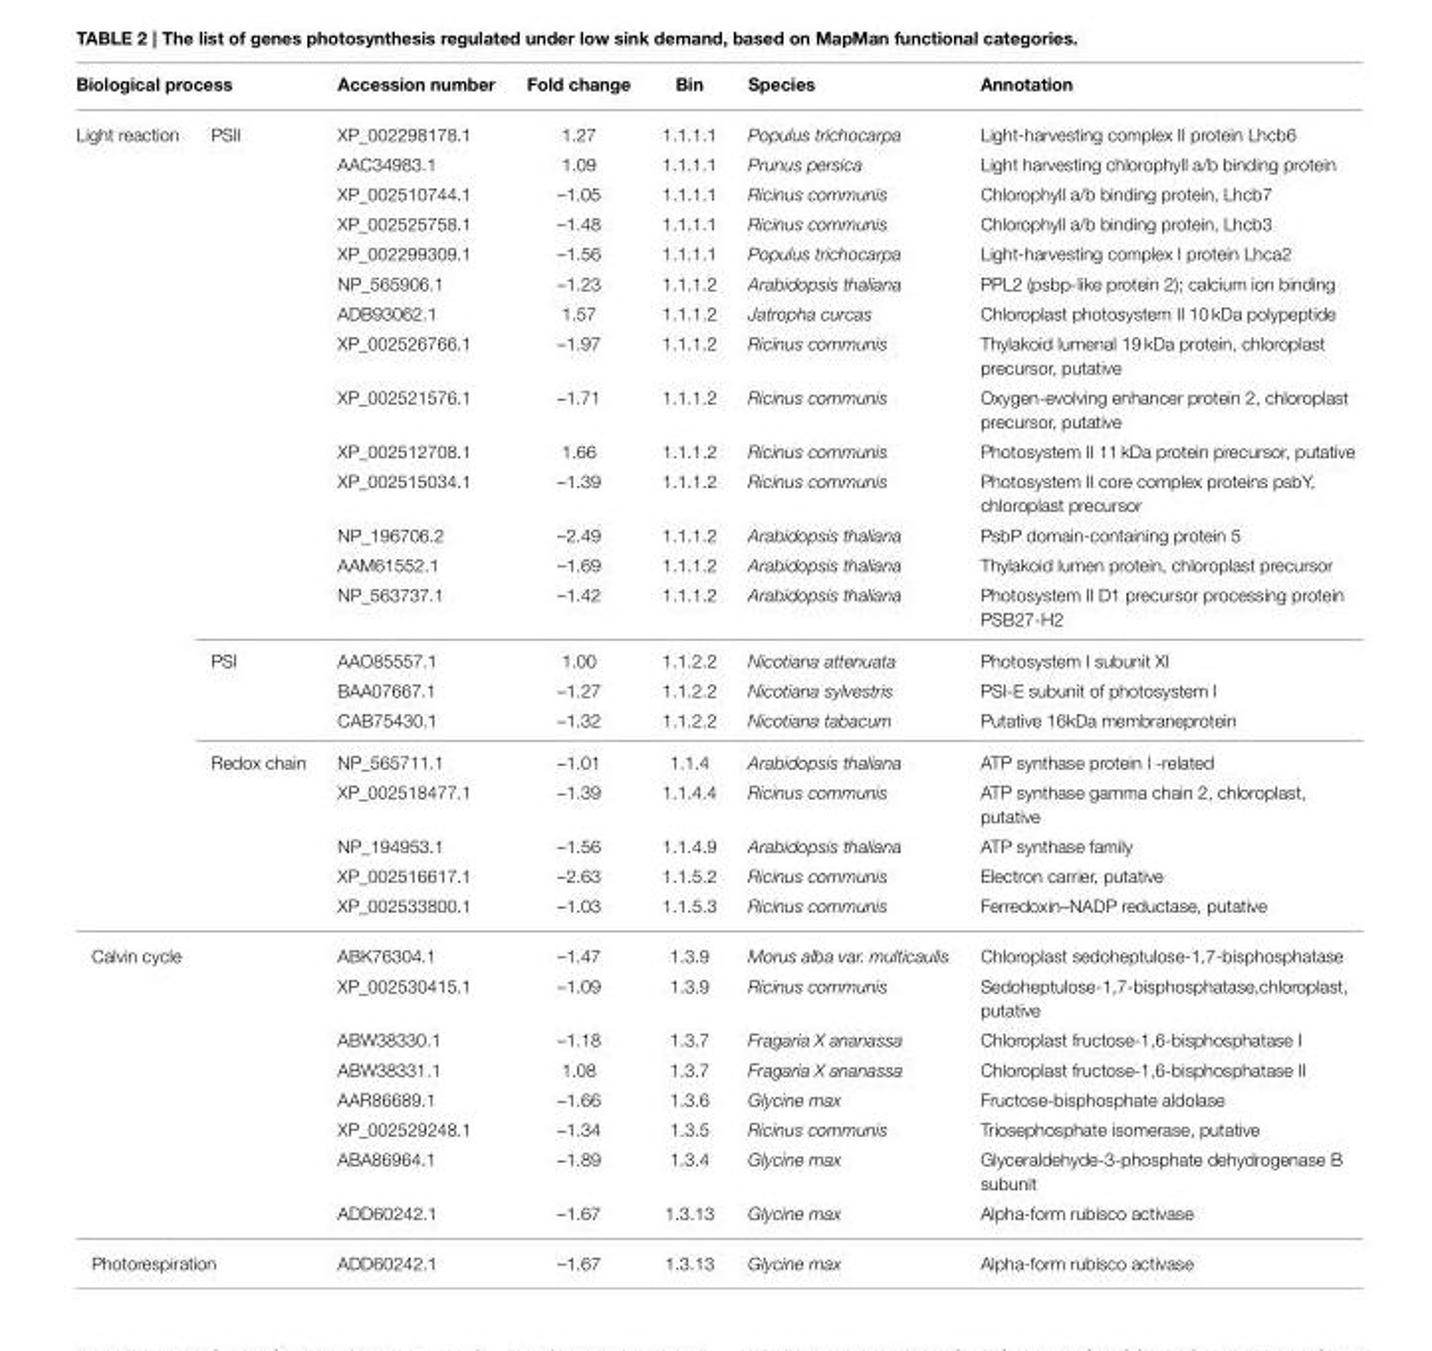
<table><thead><tr><td colspan="2">Biological process</td><td rowspan="2">Accession number XP_002298178.1</td><td rowspan="2">Fold change 1.27</td><td rowspan="2">Bin 1.1.1.1</td><td rowspan="2">Species Populus trichocarpa</td><td rowspan="2">Annotation Light-harvesting complex II protein Lhcb6</td></tr><tr><td>Light reaction</td><td>PSII</td></tr></thead><tbody><tr><td></td><td></td><td>AAC34983.1</td><td>1.09</td><td>1.1.1.1</td><td>Prunus persica</td><td>Light harvesting chlorophyll a/b binding protein</td></tr><tr><td></td><td></td><td>XP_002510744.1</td><td>–1.05</td><td>1.1.1.1</td><td>Ricinus communis</td><td>Chlorophyll a/b binding protein, Lhcb7</td></tr><tr><td></td><td></td><td>XP_002525758.1</td><td>–1.48</td><td>1.1.1.1</td><td>Ricinus communis</td><td>Chlorophyll a/b binding protein, Lhcb3</td></tr><tr><td></td><td></td><td>XP_002299309.1</td><td>–1.56</td><td>1.1.1.1</td><td>Populus trichocarpa</td><td>Light-harvesting complex I protein Lhca2</td></tr><tr><td></td><td></td><td>NP_565906.1</td><td>–1.23</td><td>1.1.1.2</td><td>Arabidopsis thaliana</td><td>PPL2 (psbp-like protein 2); calcium ion binding</td></tr><tr><td></td><td></td><td>ADB93062.1</td><td>1.57</td><td>1.1.1.2</td><td>Jatropha curcas</td><td>Chloroplast photosystem II 10 kDa polypeptide</td></tr><tr><td></td><td></td><td>XP_002526766.1</td><td>–1.97</td><td>1.1.1.2</td><td>Ricinus communis</td><td>Thylakoid lumenal 19 kDa protein, chloroplast precursor, putative</td></tr><tr><td></td><td></td><td>XP_002521576.1</td><td>–1.71</td><td>1.1.1.2</td><td>Ricinus communis</td><td>Oxygen-evolving enhancer protein 2, chloroplast precursor, putative</td></tr><tr><td></td><td></td><td>XP_002512708.1</td><td>1.66</td><td>1.1.1.2</td><td>Ricinus communis</td><td>Photosystem II 11 kDa protein precursor, putative</td></tr><tr><td></td><td></td><td>XP_002515034.1</td><td>–1.39</td><td>1.1.1.2</td><td>Ricinus communis</td><td>Photosystem II core complex proteins psbY, chloroplast precursor</td></tr><tr><td></td><td></td><td>NP_196706.2</td><td>–2.49</td><td>1.1.1.2</td><td>Arabidopsis thaliana</td><td>PsbP domain-containing protein 5</td></tr><tr><td></td><td></td><td>AAM61552.1</td><td>–1.69</td><td>1.1.1.2</td><td>Arabidopsis thaliana</td><td>Thylakoid lumen protein, chloroplast precursor</td></tr><tr><td></td><td></td><td>NP_563737.1</td><td>–1.42</td><td>1.1.1.2</td><td>Arabidopsis thaliana</td><td>Photosystem II D1 precursor processing protein PSB27-H2</td></tr><tr><td></td><td>PSI</td><td>AAO85557.1</td><td>1.00</td><td>1.1.2.2</td><td>Nicotiana attenuata</td><td>Photosystem I subunit XI</td></tr><tr><td></td><td></td><td>BAA07667.1</td><td>–1.27</td><td>1.1.2.2</td><td>Nicotiana sylvestris</td><td>PSI-E subunit of photosystem I</td></tr><tr><td></td><td></td><td>CAB75430.1</td><td>–1.32</td><td>1.1.2.2</td><td>Nicotiana tabacum</td><td>Putative 16kDa membraneprotein</td></tr><tr><td></td><td>Redox chain</td><td>NP_565711.1</td><td>–1.01</td><td>1.1.4</td><td>Arabidopsis thaliana</td><td>ATP synthase protein I -related</td></tr><tr><td></td><td></td><td>XP_002518477.1</td><td>–1.39</td><td>1.1.4.4</td><td>Ricinus communis</td><td>ATP synthase gamma chain 2, chloroplast, putative</td></tr><tr><td></td><td></td><td>NP_194953.1</td><td>–1.56</td><td>1.1.4.9</td><td>Arabidopsis thaliana</td><td>ATP synthase family</td></tr><tr><td></td><td></td><td>XP_002516617.1</td><td>–2.63</td><td>1.1.5.2</td><td>Ricinus communis</td><td>Electron carrier, putative</td></tr><tr><td></td><td></td><td>XP_002533800.1</td><td>–1.03</td><td>1.1.5.3</td><td>Ricinus communis</td><td>Ferredoxin–NADP reductase, putative</td></tr><tr><td rowspan="8" colspan="2">Calvin cycle</td><td>ABK76304.1</td><td>–1.47</td><td>1.3.9</td><td>Morus alba var. multicaulis</td><td>Chloroplast sedoheptulose-1,7-bisphosphatase</td></tr><tr><td>XP_002530415.1</td><td>–1.09</td><td>1.3.9</td><td>Ricinus communis</td><td>Sedoheptulose-1,7-bisphosphatase,chloroplast, putative</td></tr><tr><td>ABW38330.1</td><td>–1.18</td><td>1.3.7</td><td>Fragaria X ananassa</td><td>Chloroplast fructose-1,6-bisphosphatase I</td></tr><tr><td>ABW38331.1</td><td>1.08</td><td>1.3.7</td><td>Fragaria X ananassa</td><td>Chloroplast fructose-1,6-bisphosphatase II</td></tr><tr><td>AAR86689.1</td><td>–1.66</td><td>1.3.6</td><td>Glycine max</td><td>Fructose-bisphosphate aldolase</td></tr><tr><td>XP_002529248.1</td><td>–1.34</td><td>1.3.5</td><td>Ricinus communis</td><td>Triosephosphate isomerase, putative</td></tr><tr><td>ABA86964.1</td><td>–1.89</td><td>1.3.4</td><td>Glycine max</td><td>Glyceraldehyde-3-phosphate dehydrogenase B subunit</td></tr><tr><td>ADD60242.1</td><td>–1.67</td><td>1.3.13</td><td>Glycine max</td><td>Alpha-form rubisco activase</td></tr><tr><td colspan="2">Photorespiration</td><td>ADD60242.1</td><td>–1.67</td><td>1.3.13</td><td>Glycine max</td><td>Alpha-form rubisco activase</td></tr></tbody></table>